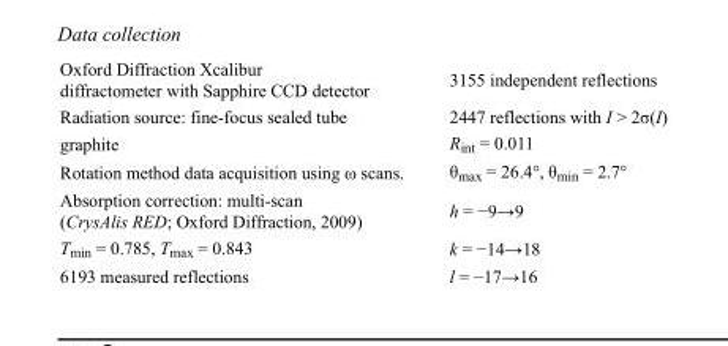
<table><tbody><tr><td>Oxford Diffraction Xcalibur diffractometer with Sapphire CCD detector</td><td>3155 independent reflections</td></tr><tr><td>Radiation source: fine-focus sealed tube</td><td>2447 reflections with I &gt; 2σ(I)</td></tr><tr><td>graphite</td><td>R<sub>int</sub> = 0.011</td></tr><tr><td>Rotation method data acquisition using ω scans.</td><td>θ<sub>max</sub> = 26.4°, θ<sub>min</sub> = 2.7°</td></tr><tr><td>Absorption correction: multi-scan (CrysAlis RED; Oxford Diffraction, 2009)</td><td>h = −9→9</td></tr><tr><td>T<sub>min</sub> = 0.785, T<sub>max</sub> = 0.843</td><td>k = −14→18</td></tr><tr><td>6193 measured reflections</td><td>l = −17→16</td></tr></tbody></table>